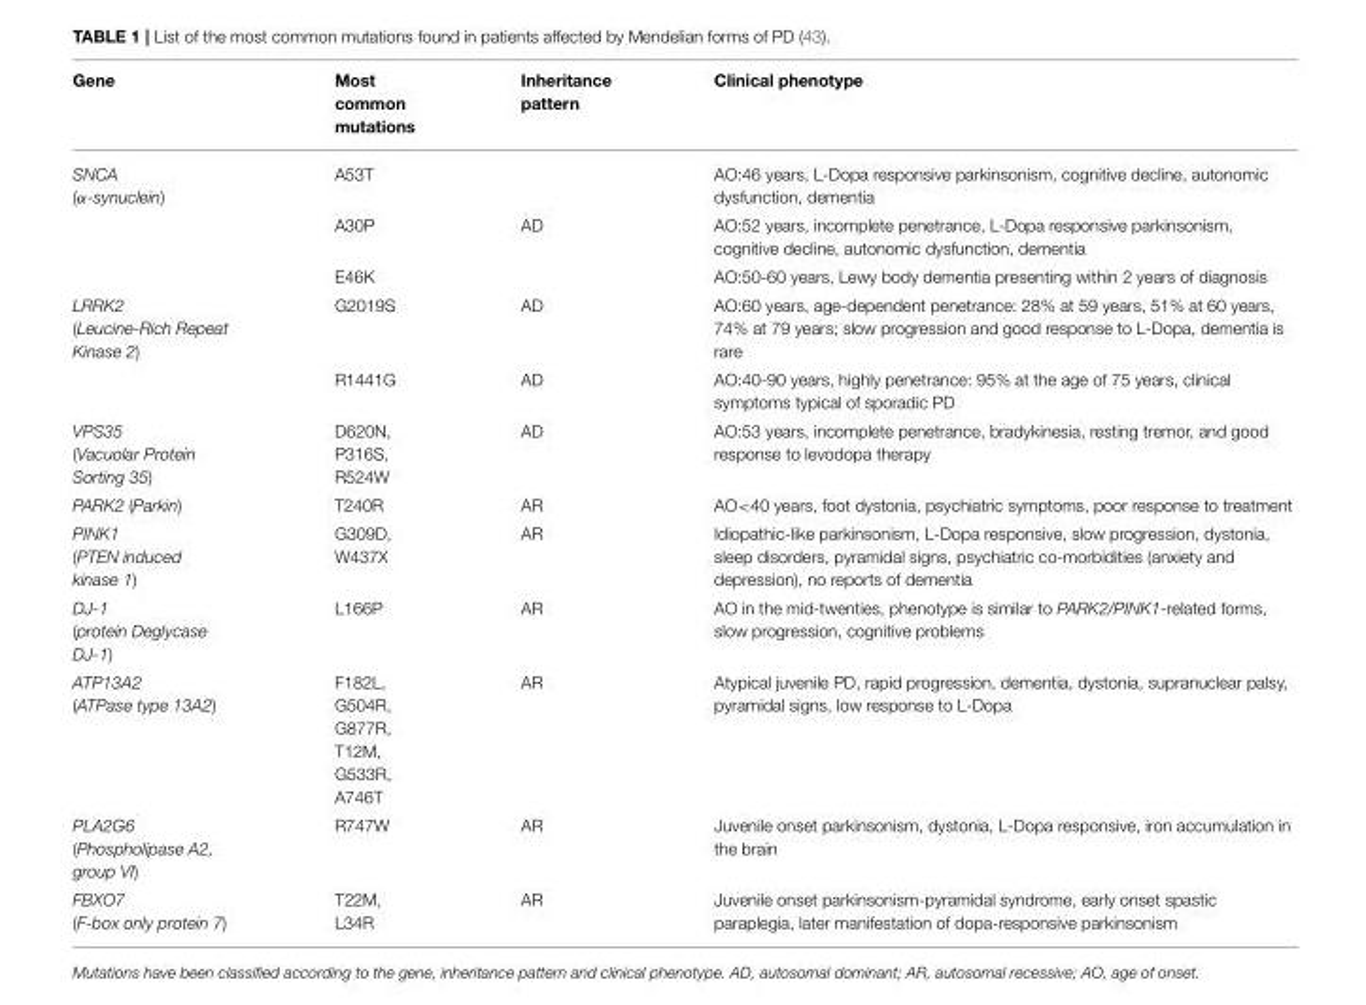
<table><thead><tr><td>Gene</td><td>Most common mutations</td><td>Inheritance pattern</td><td>Clinical phenotype</td></tr></thead><tbody><tr><td rowspan="3">SNCA (α-synuclein)</td><td>A53T</td><td></td><td>AO:46 years, L-Dopa responsive parkinsonism, cognitive decline, autonomic dysfunction, dementia</td></tr><tr><td>A30P</td><td>AD</td><td>AO:52 years, incomplete penetrance, L-Dopa responsive parkinsonism, cognitive decline, autonomic dysfunction, dementia</td></tr><tr><td>E46K</td><td></td><td>AO:50-60 years, Lewy body dementia presenting within 2 years of diagnosis</td></tr><tr><td rowspan="2">LRRK2 (Leucine-Rich Repeat Kinase 2)</td><td>G2019S</td><td>AD</td><td>AO:60 years, age-dependent penetrance: 28% at 59 years, 51% at 60 years, 74% at 79 years; slow progression and good response to L-Dopa, dementia is rare</td></tr><tr><td>R1441G</td><td>AD</td><td>AO:40-90 years, highly penetrance: 95% at the age of 75 years, clinical symptoms typical of sporadic PD</td></tr><tr><td>VPS35 (Vacuolar Protein Sorting 35)</td><td>D620N, P316S, R524W</td><td>AD</td><td>AO:53 years, incomplete penetrance, bradykinesia, resting tremor, and good response to levodopa therapy</td></tr><tr><td>PARK2 (Parkin)</td><td>T240R</td><td>AR</td><td>AO&lt;40 years, foot dystonia, psychiatric symptoms, poor response to treatment</td></tr><tr><td>PINK1 (PTEN induced kinase 1)</td><td>G309D, W437X</td><td>AR</td><td>Idiopathic-like parkinsonism, L-Dopa responsive, slow progression, dystonia, sleep disorders, pyramidal signs, psychiatric co-morbidities (anxiety and depression), no reports of dementia</td></tr><tr><td>DJ-1 (protein Deglycase DJ-1)</td><td>L166P</td><td>AR</td><td>AO in the mid-twenties, phenotype is similar to PARK2/PINK1-related forms, slow progression, cognitive problems</td></tr><tr><td>ATP13A2 (ATPase type 13A2)</td><td>F182L, G504R, G877R, T12M, G533R, A746T</td><td>AR</td><td>Atypical juvenile PD, rapid progression, dementia, dystonia, supranuclear palsy, pyramidal signs, low response to L-Dopa</td></tr><tr><td>PLA2G6 (Phospholipase A2, group VI)</td><td>R747W</td><td>AR</td><td>Juvenile onset parkinsonism, dystonia, L-Dopa responsive, iron accumulation in the brain</td></tr><tr><td>FBXO7 (F-box only protein 7)</td><td>T22M, L34R</td><td>AR</td><td>Juvenile onset parkinsonism-pyramidal syndrome, early onset spastic paraplegia, later manifestation of dopa-responsive parkinsonism</td></tr></tbody></table>